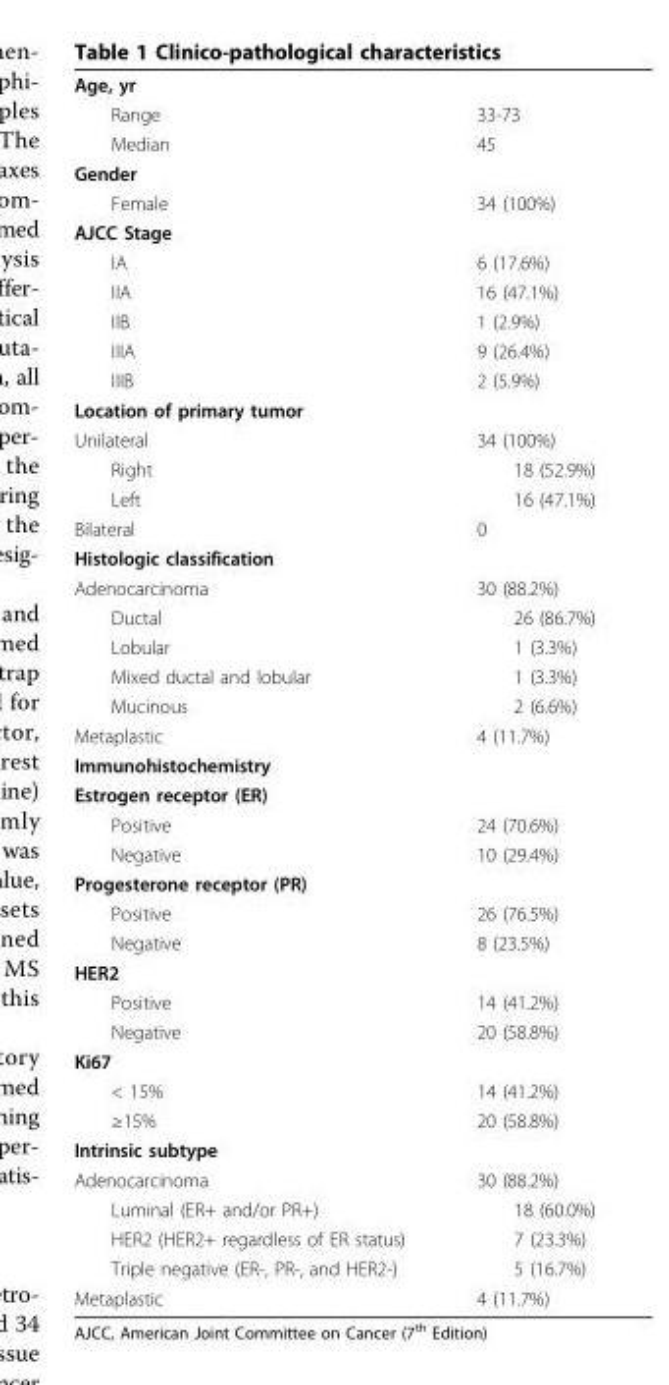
<table><tbody><tr><td colspan="2">Age, yr</td></tr><tr><td>Range</td><td>33-73</td></tr><tr><td>Median</td><td>45</td></tr><tr><td colspan="2">Gender</td></tr><tr><td>Female</td><td>34 (100%)</td></tr><tr><td colspan="2">AJCC Stage</td></tr><tr><td>IA</td><td>6 (17.6%)</td></tr><tr><td>IIA</td><td>16 (47.1%)</td></tr><tr><td>IIB</td><td>1 (2.9%)</td></tr><tr><td>IIIA</td><td>9 (26.4%)</td></tr><tr><td>IIIB</td><td>2 (5.9%)</td></tr><tr><td colspan="2">Location of primary tumor</td></tr><tr><td>Unilateral</td><td>34 (100%)</td></tr><tr><td>Right</td><td>18 (52.9%)</td></tr><tr><td>Left</td><td>16 (47.1%)</td></tr><tr><td>Bilateral</td><td>0</td></tr><tr><td colspan="2">Histologic classification</td></tr><tr><td>Adenocarcinoma</td><td>30 (88.2%)</td></tr><tr><td>Ductal</td><td>26 (86.7%)</td></tr><tr><td>Lobular</td><td>1 (3.3%)</td></tr><tr><td>Mixed ductal and lobular</td><td>1 (3.3%)</td></tr><tr><td>Mucinous</td><td>2 (6.6%)</td></tr><tr><td>Metaplastic</td><td>4 (11.7%)</td></tr><tr><td colspan="2">Immunohistochemistry</td></tr><tr><td colspan="2">Estrogen receptor (ER)</td></tr><tr><td>Positive</td><td>24 (70.6%)</td></tr><tr><td>Negative</td><td>10 (29.4%)</td></tr><tr><td colspan="2">Progesterone receptor (PR)</td></tr><tr><td>Positive</td><td>26 (76.5%)</td></tr><tr><td>Negative</td><td>8 (23.5%)</td></tr><tr><td colspan="2">HER2</td></tr><tr><td>Positive</td><td>14 (41.2%)</td></tr><tr><td>Negative</td><td>20 (58.8%)</td></tr><tr><td colspan="2">Ki67</td></tr><tr><td>&lt; 15%</td><td>14 (41.2%)</td></tr><tr><td>≥15%</td><td>20 (58.8%)</td></tr><tr><td colspan="2">Intrinsic subtype</td></tr><tr><td>Adenocarcinoma</td><td>30 (88.2%)</td></tr><tr><td>Luminal (ER+ and/or PR+)</td><td>18 (60.0%)</td></tr><tr><td>HER2 (HER2+ regardless of ER status)</td><td>7 (23.3%)</td></tr><tr><td>Triple negative (ER-, PR-, and HER2-)</td><td>5 (16.7%)</td></tr><tr><td>Metaplastic</td><td>4 (11.7%)</td></tr></tbody></table>